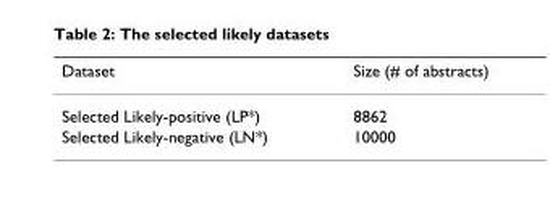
<table><thead><tr><td>Dataset</td><td>Size (# of abstracts)</td></tr></thead><tbody><tr><td>Selected Likely-positive (LP*)</td><td>8862</td></tr><tr><td>Selected Likely-negative (LN*)</td><td>10000</td></tr></tbody></table>